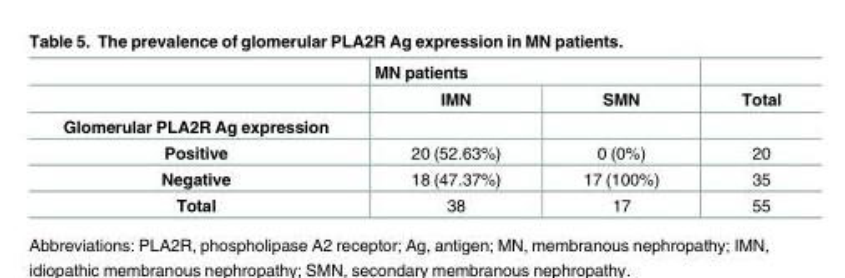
<table><thead><tr><td rowspan="2"></td><td colspan="2">MN patients</td><td rowspan="2">Total</td></tr><tr><td>IMN</td><td>SMN</td></tr></thead><tbody><tr><td colspan="4">Glomerular PLA2R Ag expression</td></tr><tr><td>Positive</td><td>20 (52.63%)</td><td>0 (0%)</td><td>20</td></tr><tr><td>Negative</td><td>18 (47.37%)</td><td>17 (100%)</td><td>35</td></tr><tr><td>Total</td><td>38</td><td>17</td><td>55</td></tr></tbody></table>